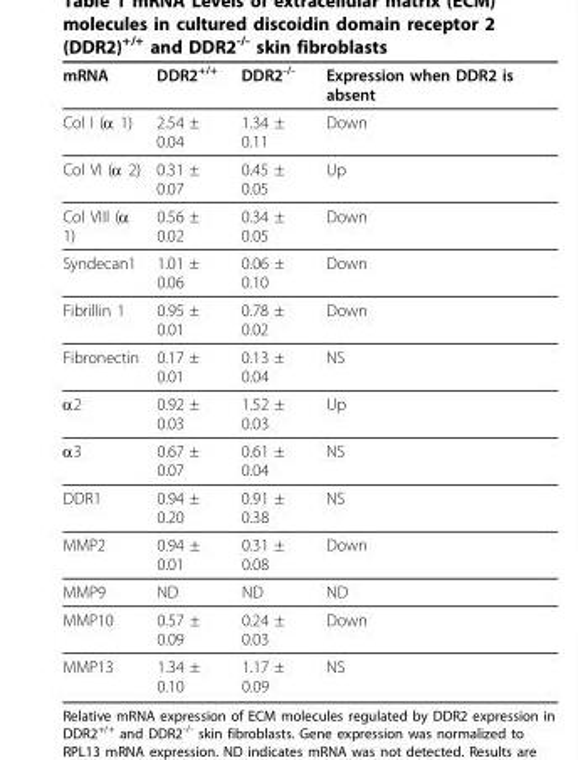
<table><thead><tr><td>mRNA</td><td>DDR2<sup>+/+</sup></td><td>DDR2<sup>-/-</sup></td><td>Expression when DDR2 is absent</td></tr></thead><tbody><tr><td>Col I (α 1)</td><td>2.54 ± 0.04</td><td>1.34 ± 0.11</td><td>Down</td></tr><tr><td>Col VI (α 2)</td><td>0.31 ± 0.07</td><td>0.45 ± 0.05</td><td>Up</td></tr><tr><td>Col VIII (α 1)</td><td>0.56 ± 0.02</td><td>0.34 ± 0.05</td><td>Down</td></tr><tr><td>Syndecan1</td><td>1.01 ± 0.06</td><td>0.06 ± 0.10</td><td>Down</td></tr><tr><td>Fibrillin 1</td><td>0.95 ± 0.01</td><td>0.78 ± 0.02</td><td>Down</td></tr><tr><td>Fibronectin</td><td>0.17 ± 0.01</td><td>0.13 ± 0.04</td><td>NS</td></tr><tr><td>α2</td><td>0.92 ± 0.03</td><td>1.52 ± 0.03</td><td>Up</td></tr><tr><td>α3</td><td>0.67 ± 0.07</td><td>0.61 ± 0.04</td><td>NS</td></tr><tr><td>DDR1</td><td>0.94 ± 0.20</td><td>0.91 ± 0.38</td><td>NS</td></tr><tr><td>MMP2</td><td>0.94 ± 0.01</td><td>0.31 ± 0.08</td><td>Down</td></tr><tr><td>MMP9</td><td>ND</td><td>ND</td><td>ND</td></tr><tr><td>MMP10</td><td>0.57 ± 0.09</td><td>0.24 ± 0.03</td><td>Down</td></tr><tr><td>MMP13</td><td>1.34 ± 0.10</td><td>1.17 ± 0.09</td><td>NS</td></tr></tbody></table>